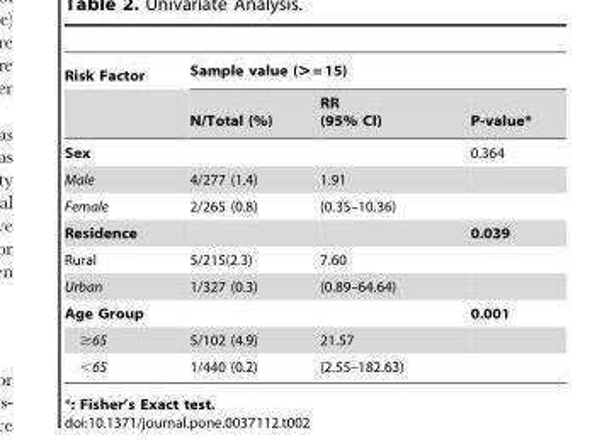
<table><thead><tr><td rowspan="2">Risk Factor</td><td colspan="3">Sample value (&gt; = 15)</td></tr><tr><td>N/Total (%)</td><td>RR (95% CI)</td><td>P-value*</td></tr></thead><tbody><tr><td>Sex</td><td></td><td></td><td>0.364</td></tr><tr><td>Male</td><td>4/277 (1.4)</td><td>1.91</td><td></td></tr><tr><td>Female</td><td>2/265 (0.8)</td><td>(0.35–10.36)</td><td></td></tr><tr><td>Residence</td><td></td><td></td><td>0.039</td></tr><tr><td>Rural</td><td>5/215(2.3)</td><td>7.60</td><td></td></tr><tr><td>Urban</td><td>1/327 (0.3)</td><td>(0.89–64.64)</td><td></td></tr><tr><td>Age Group</td><td></td><td></td><td>0.001</td></tr><tr><td>≥65</td><td>5/102 (4.9)</td><td>21.57</td><td></td></tr><tr><td>&lt;65</td><td>1/440 (0.2)</td><td>(2.55–182.63)</td><td></td></tr></tbody></table>